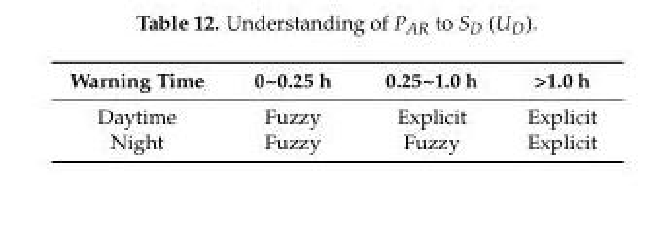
<table><thead><tr><td>Warning Time</td><td>0~0.25 h</td><td>0.25~1.0 h</td><td>&gt;1.0 h</td></tr></thead><tbody><tr><td>Daytime</td><td>Fuzzy</td><td>Explicit</td><td>Explicit</td></tr><tr><td>Night</td><td>Fuzzy</td><td>Fuzzy</td><td>Explicit</td></tr></tbody></table>